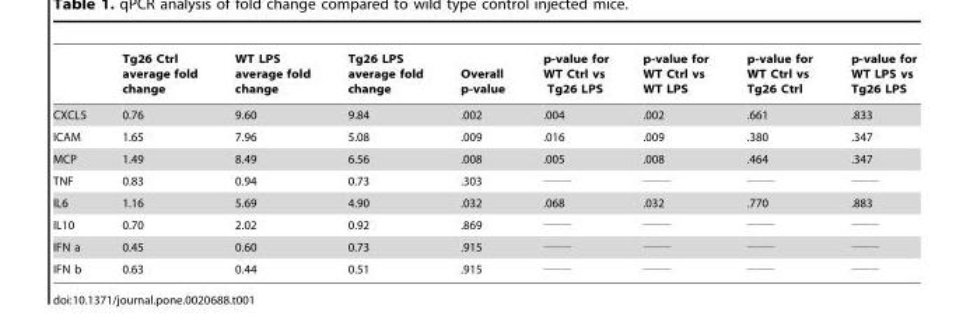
<table><thead><tr><td></td><td>Tg26 Ctrl average fold change</td><td>WT LPS average fold change</td><td>Tg26 LPS average fold change</td><td>Overall p-value</td><td>p-value for WT Ctrl vs Tg26 LPS</td><td>p-value for WT Ctrl vs WT LPS</td><td>p-value for WT Ctrl vs Tg26 Ctrl</td><td>p-value for WT LPS vs Tg26 LPS</td></tr></thead><tbody><tr><td>CXCL5</td><td>0.76</td><td>9.60</td><td>9.84</td><td>.002</td><td>.004</td><td>.002</td><td>.661</td><td>.833</td></tr><tr><td>ICAM</td><td>1.65</td><td>7.96</td><td>5.08</td><td>.009</td><td>.016</td><td>.009</td><td>.380</td><td>.347</td></tr><tr><td>MCP</td><td>1.49</td><td>8.49</td><td>6.56</td><td>.008</td><td>.005</td><td>.008</td><td>.464</td><td>.347</td></tr><tr><td>TNF</td><td>0.83</td><td>0.94</td><td>0.73</td><td>.303</td><td><sup>______</sup></td><td><sup>______</sup></td><td><sup>______</sup></td><td><sup>______</sup></td></tr><tr><td>IL6</td><td>1.16</td><td>5.69</td><td>4.90</td><td>.032</td><td>.068</td><td>.032</td><td>.770</td><td>.883</td></tr><tr><td>IL10</td><td>0.70</td><td>2.02</td><td>0.92</td><td>.869</td><td><sup>______</sup></td><td><sup>______</sup></td><td><sup>______</sup></td><td><sup>______</sup></td></tr><tr><td>IFN a</td><td>0.45</td><td>0.60</td><td>0.73</td><td>.915</td><td><sup>______</sup></td><td><sup>______</sup></td><td><sup>______</sup></td><td><sup>______</sup></td></tr><tr><td>IFN b</td><td>0.63</td><td>0.44</td><td>0.51</td><td>.915</td><td><sup>______</sup></td><td><sup>______</sup></td><td><sup>______</sup></td><td><sup>______</sup></td></tr></tbody></table>